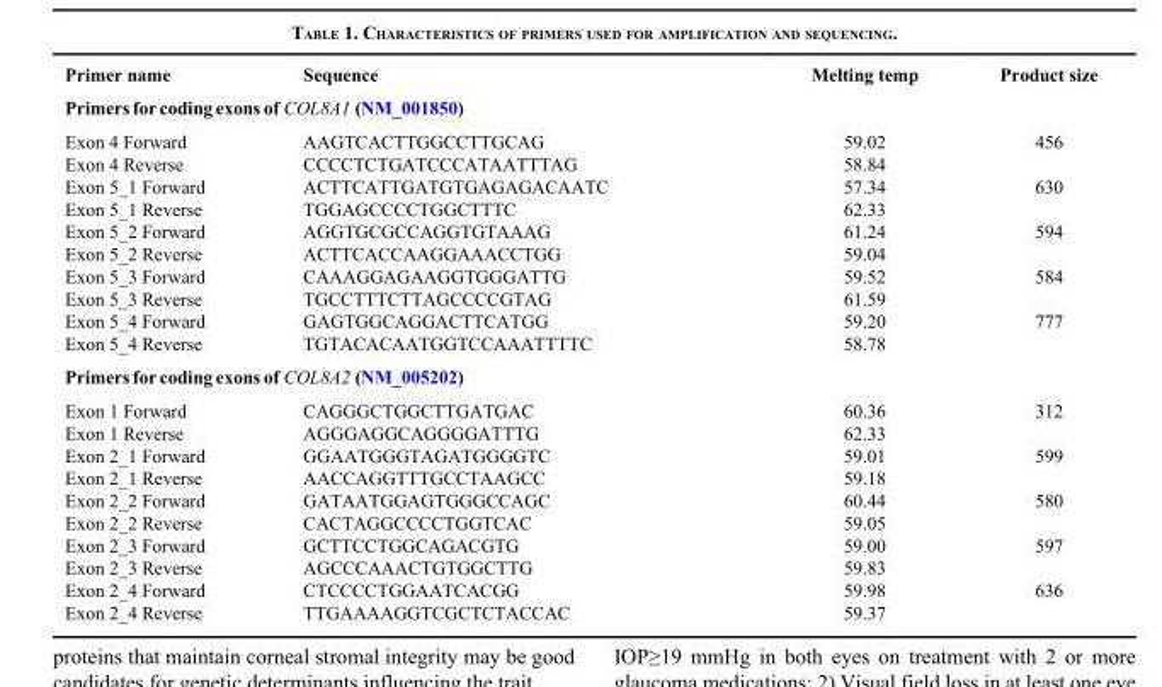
<table><thead><tr><td>Primer name</td><td>Sequence</td><td>Melting temp</td><td>Product size</td></tr></thead><tbody><tr><td colspan="4">Primers for coding exons of COL8A1 (NM_001850)</td></tr><tr><td>Exon 4 Forward</td><td>AAGTCACTTGGCCTTGCAG</td><td>59.02</td><td>456</td></tr><tr><td>Exon 4 Reverse</td><td>CCCCTCTGATCCCATAATTTAG</td><td>58.84</td><td></td></tr><tr><td>Exon 5_1 Forward</td><td>ACTTCATTGATGTGAGAGACAATC</td><td>57.34</td><td>630</td></tr><tr><td>Exon 5_1 Reverse</td><td>TGGAGCCCCTGGCTTTC</td><td>62.33</td><td></td></tr><tr><td>Exon 5_2 Forward</td><td>AGGTGCGCCAGGTGTAAAG</td><td>61.24</td><td>594</td></tr><tr><td>Exon 5_2 Reverse</td><td>ACTTCACCAAGGAAACCTGG</td><td>59.04</td><td></td></tr><tr><td>Exon 5_3 Forward</td><td>CAAAGGAGAAGGTGGGATTG</td><td>59.52</td><td>584</td></tr><tr><td>Exon 5_3 Reverse</td><td>TGCCTTTCTTAGCCCCGTAG</td><td>61.59</td><td></td></tr><tr><td>Exon 5_4 Forward</td><td>GAGTGGCAGGACTTCATGG</td><td>59.20</td><td>777</td></tr><tr><td>Exon 5_4 Reverse</td><td>TGTACACAATGGTCCAAATTTTC</td><td>58.78</td><td></td></tr><tr><td colspan="4">Primers for coding exons of COL8A2 (NM_005202)</td></tr><tr><td>Exon 1 Forward</td><td>CAGGGCTGGCTTGATGAC</td><td>60.36</td><td>312</td></tr><tr><td>Exon 1 Reverse</td><td>AGGGAGGCAGGGGATTTG</td><td>62.33</td><td></td></tr><tr><td>Exon 2_1 Forward</td><td>GGAATGGGTAGATGGGGTC</td><td>59.01</td><td>599</td></tr><tr><td>Exon 2_1 Reverse</td><td>AACCAGGTTTGCCTAAGCC</td><td>59.18</td><td></td></tr><tr><td>Exon 2_2 Forward</td><td>GATAATGGAGTGGGCCAGC</td><td>60.44</td><td>580</td></tr><tr><td>Exon 2_2 Reverse</td><td>CACTAGGCCCCTGGTCAC</td><td>59.05</td><td></td></tr><tr><td>Exon 2_3 Forward</td><td>GCTTCCTGGCAGACGTG</td><td>59.00</td><td>597</td></tr><tr><td>Exon 2_3 Reverse</td><td>AGCCCAAACTGTGGCTTG</td><td>59.83</td><td></td></tr><tr><td>Exon 2_4 Forward</td><td>CTCCCCTGGAATCACGG</td><td>59.98</td><td>636</td></tr><tr><td>Exon 2_4 Reverse</td><td>TTGAAAAGGTCGCTCTACCAC</td><td>59.37</td><td></td></tr></tbody></table>